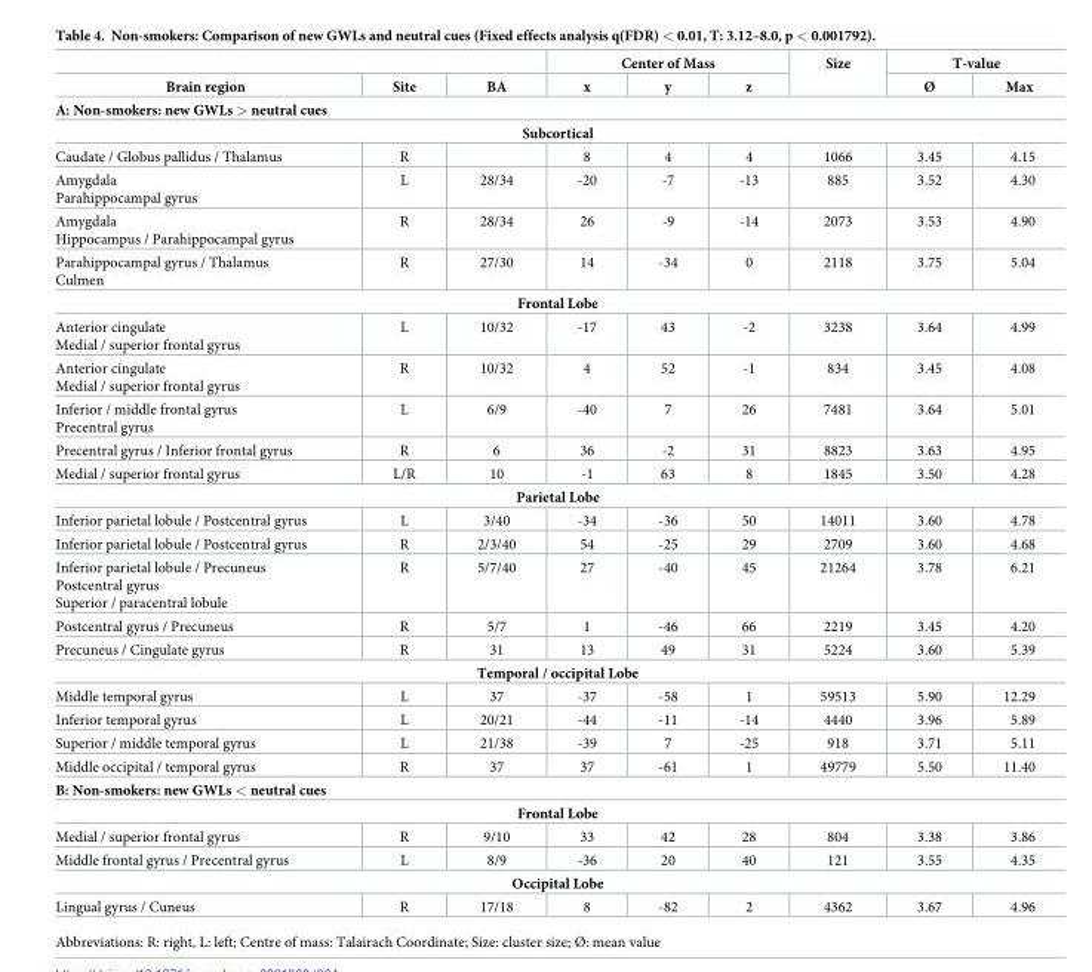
<table><thead><tr><td rowspan="2">Brain region</td><td rowspan="2">Site</td><td rowspan="2">BA</td><td colspan="3">Center of Mass</td><td rowspan="2">Size</td><td colspan="2">T-value</td></tr><tr><td>x</td><td>y</td><td>z</td><td>Ø</td><td>Max</td></tr></thead><tbody><tr><td colspan="9">A: Non-smokers: new GWLs &gt; neutral cues</td></tr><tr><td colspan="9">Subcortical</td></tr><tr><td>Caudate / Globus pallidus / Thalamus</td><td>R</td><td></td><td>8</td><td>4</td><td>4</td><td>1066</td><td>3.45</td><td>4.15</td></tr><tr><td>Amygdala Parahippocampal gyrus</td><td>L</td><td>28/34</td><td>-20</td><td>-7</td><td>-13</td><td>885</td><td>3.52</td><td>4.30</td></tr><tr><td>Amygdala Hippocampus / Parahippocampal gyrus</td><td>R</td><td>28/34</td><td>26</td><td>-9</td><td>-14</td><td>2073</td><td>3.53</td><td>4.90</td></tr><tr><td>Parahippocampal gyrus / Thalamus Culmen</td><td>R</td><td>27/30</td><td>14</td><td>-34</td><td>0</td><td>2118</td><td>3.75</td><td>5.04</td></tr><tr><td colspan="9">Frontal Lobe</td></tr><tr><td>Anterior cingulate Medial / superior frontal gyrus</td><td>L</td><td>10/32</td><td>-17</td><td>43</td><td>-2</td><td>3238</td><td>3.64</td><td>4.99</td></tr><tr><td>Anterior cingulate Medial / superior frontal gyrus</td><td>R</td><td>10/32</td><td>4</td><td>52</td><td>-1</td><td>834</td><td>3.45</td><td>4.08</td></tr><tr><td>Inferior / middle frontal gyrus Precentral gyrus</td><td>L</td><td>6/9</td><td>-40</td><td>7</td><td>26</td><td>7481</td><td>3.64</td><td>5.01</td></tr><tr><td>Precentral gyrus / Inferior frontal gyrus</td><td>R</td><td>6</td><td>36</td><td>-2</td><td>31</td><td>8823</td><td>3.63</td><td>4.95</td></tr><tr><td>Medial / superior frontal gyrus</td><td>L/R</td><td>10</td><td>-1</td><td>63</td><td>8</td><td>1845</td><td>3.50</td><td>4.28</td></tr><tr><td colspan="9">Parietal Lobe</td></tr><tr><td>Inferior parietal lobule / Postcentral gyrus</td><td>L</td><td>3/40</td><td>-34</td><td>-36</td><td>50</td><td>14011</td><td>3.60</td><td>4.78</td></tr><tr><td>Inferior parietal lobule / Postcentral gyrus</td><td>R</td><td>2/3/40</td><td>54</td><td>-25</td><td>29</td><td>2709</td><td>3.60</td><td>4.68</td></tr><tr><td>Inferior parietal lobule / Precuneus Postcentral gyrus Superior / paracentral lobule</td><td>R</td><td>5/7/40</td><td>27</td><td>-40</td><td>45</td><td>21264</td><td>3.78</td><td>6.21</td></tr><tr><td>Postcentral gyrus / Precuneus</td><td>R</td><td>5/7</td><td>1</td><td>-46</td><td>66</td><td>2219</td><td>3.45</td><td>4.20</td></tr><tr><td>Precuneus / Cingulate gyrus</td><td>R</td><td>31</td><td>13</td><td>49</td><td>31</td><td>5224</td><td>3.60</td><td>5.39</td></tr><tr><td colspan="9">Temporal / occipital Lobe</td></tr><tr><td>Middle temporal gyrus</td><td>L</td><td>37</td><td>-37</td><td>-58</td><td>1</td><td>59513</td><td>5.90</td><td>12.29</td></tr><tr><td>Inferior temporal gyrus</td><td>L</td><td>20/21</td><td>-44</td><td>-11</td><td>-14</td><td>4440</td><td>3.96</td><td>5.89</td></tr><tr><td>Superior / middle temporal gyrus</td><td>L</td><td>21/38</td><td>-39</td><td>7</td><td>-25</td><td>918</td><td>3.71</td><td>5.11</td></tr><tr><td>Middle occipital / temporal gyrus</td><td>R</td><td>37</td><td>37</td><td>-61</td><td>1</td><td>49779</td><td>5.50</td><td>11.40</td></tr><tr><td colspan="9">B: Non-smokers: new GWLs &lt; neutral cues</td></tr><tr><td colspan="9">Frontal Lobe</td></tr><tr><td>Medial / superior frontal gyrus</td><td>R</td><td>9/10</td><td>33</td><td>42</td><td>28</td><td>804</td><td>3.38</td><td>3.86</td></tr><tr><td>Middle frontal gyrus / Precentral gyrus</td><td>L</td><td>8/9</td><td>-36</td><td>20</td><td>40</td><td>121</td><td>3.55</td><td>4.35</td></tr><tr><td colspan="9">Occipital Lobe</td></tr><tr><td>Lingual gyrus / Cuneus</td><td>R</td><td>17/18</td><td>8</td><td>-82</td><td>2</td><td>4362</td><td>3.67</td><td>4.96</td></tr></tbody></table>